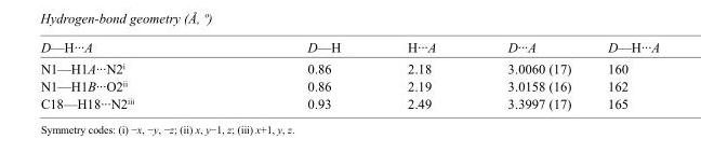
<table><tbody><tr><td>D—H···A</td><td>D—H</td><td>H···A</td><td>D···A</td><td>D—H···A</td></tr><tr><td>N1—H1A···N2<sup>i</sup></td><td>0.86</td><td>2.18</td><td>3.0060 (17)</td><td>160</td></tr><tr><td>N1—H1B···O2<sup>ii</sup></td><td>0.86</td><td>2.19</td><td>3.0158 (16)</td><td>162</td></tr><tr><td>C18—H18···N2<sup>iii</sup></td><td>0.93</td><td>2.49</td><td>3.3997 (17)</td><td>165</td></tr></tbody></table>